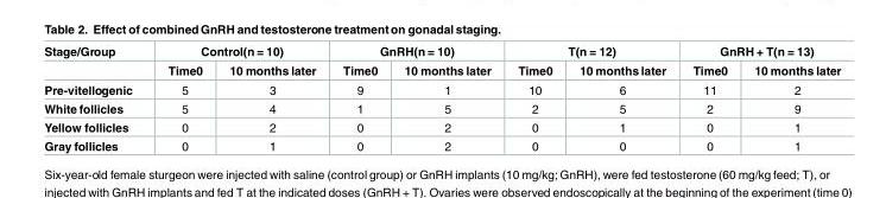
<table><thead><tr><td rowspan="2">Stage/Group</td><td colspan="2">Control(n = 10)</td><td colspan="2">GnRH(n = 10)</td><td colspan="2">T(n = 12)</td><td colspan="2">GnRH + T(n = 13)</td></tr><tr><td>Time0</td><td>10 months later</td><td>Time0</td><td>10 months later</td><td>Time0</td><td>10 months later</td><td>Time0</td><td>10 months later</td></tr></thead><tbody><tr><td>Pre-vitellogenic</td><td>5</td><td>3</td><td>9</td><td>1</td><td>10</td><td>6</td><td>11</td><td>2</td></tr><tr><td>White follicles</td><td>5</td><td>4</td><td>1</td><td>5</td><td>2</td><td>5</td><td>2</td><td>9</td></tr><tr><td>Yellow follicles</td><td>0</td><td>2</td><td>0</td><td>2</td><td>0</td><td>1</td><td>0</td><td>1</td></tr><tr><td>Gray follicles</td><td>0</td><td>1</td><td>0</td><td>2</td><td>0</td><td>0</td><td>0</td><td>1</td></tr></tbody></table>